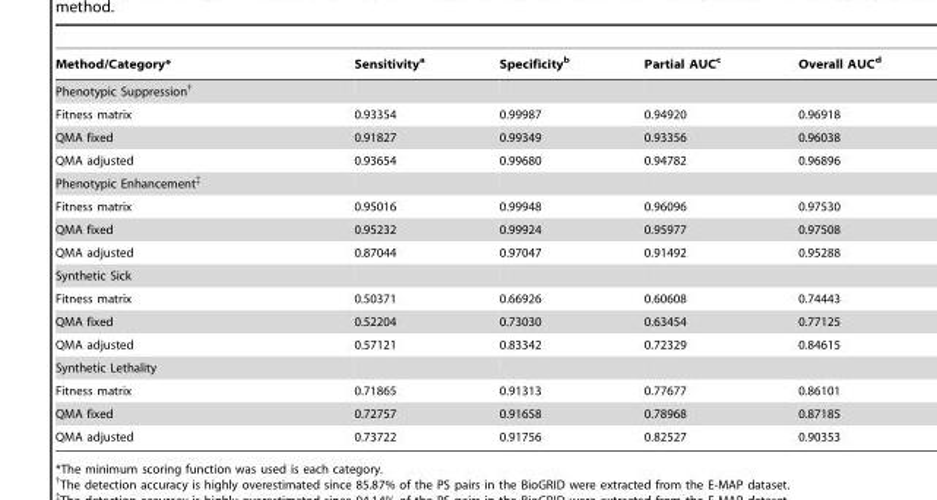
<table><thead><tr><td>Method/Category*</td><td>Sensitivity<sup>a</sup></td><td>Specificity<sup>b</sup></td><td>Partial AUC<sup>c</sup></td><td>Overall AUC<sup>d</sup></td></tr></thead><tbody><tr><td colspan="5">Phenotypic Suppression†</td></tr><tr><td>Fitness matrix</td><td>0.93354</td><td>0.99987</td><td>0.94920</td><td>0.96918</td></tr><tr><td>QMA fixed</td><td>0.91827</td><td>0.99349</td><td>0.93356</td><td>0.96038</td></tr><tr><td>QMA adjusted</td><td>0.93654</td><td>0.99680</td><td>0.94782</td><td>0.96896</td></tr><tr><td colspan="5">Phenotypic Enhancement‡</td></tr><tr><td>Fitness matrix</td><td>0.95016</td><td>0.99948</td><td>0.96096</td><td>0.97530</td></tr><tr><td>QMA fixed</td><td>0.95232</td><td>0.99924</td><td>0.95977</td><td>0.97508</td></tr><tr><td>QMA adjusted</td><td>0.87044</td><td>0.97047</td><td>0.91492</td><td>0.95288</td></tr><tr><td colspan="5">Synthetic Sick</td></tr><tr><td>Fitness matrix</td><td>0.50371</td><td>0.66926</td><td>0.60608</td><td>0.74443</td></tr><tr><td>QMA fixed</td><td>0.52204</td><td>0.73030</td><td>0.63454</td><td>0.77125</td></tr><tr><td>QMA adjusted</td><td>0.57121</td><td>0.83342</td><td>0.72329</td><td>0.84615</td></tr><tr><td colspan="5">Synthetic Lethality</td></tr><tr><td>Fitness matrix</td><td>0.71865</td><td>0.91313</td><td>0.77677</td><td>0.86101</td></tr><tr><td>QMA fixed</td><td>0.72757</td><td>0.91658</td><td>0.78968</td><td>0.87185</td></tr><tr><td>QMA adjusted</td><td>0.73722</td><td>0.91756</td><td>0.82527</td><td>0.90353</td></tr></tbody></table>